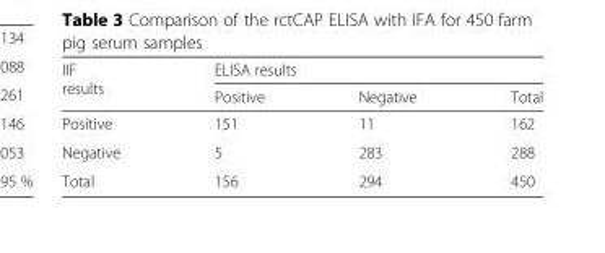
<table><thead><tr><td rowspan="2">IIF results</td><td colspan="3">ELISA results</td></tr><tr><td>Positive</td><td>Negative</td><td>Total</td></tr></thead><tbody><tr><td>Positive</td><td>151</td><td>11</td><td>162</td></tr><tr><td>Negative</td><td>5</td><td>283</td><td>288</td></tr><tr><td>Total</td><td>156</td><td>294</td><td>450</td></tr></tbody></table>